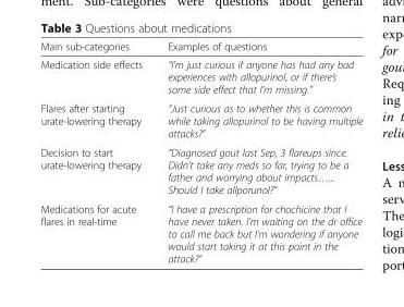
<table><thead><tr><td>Main sub-categories</td><td>Examples of questions</td></tr></thead><tbody><tr><td>Medication side effects</td><td>“I’m just curious if anyone has had any bad experiences with allopurinol, or if there’s some side effect that I’m missing.”</td></tr><tr><td>Flares after starting urate-lowering therapy</td><td>“Just curious as to whether this is common while taking allopurinol to be having multiple attacks?”</td></tr><tr><td>Decision to start urate-lowering therapy</td><td>“Diagnosed gout last Sep, 3 flareups since. Didn’t take any meds so far, trying to be a father and worrying about impacts…... Should I take allporunol?”</td></tr><tr><td>Medications for acute flares in real-time</td><td>“I have a prescription for chochicine that I have never taken. I’m waiting on the dr office to call me back but I’m wondering if anyone would start taking it at this point in the attack?”</td></tr></tbody></table>